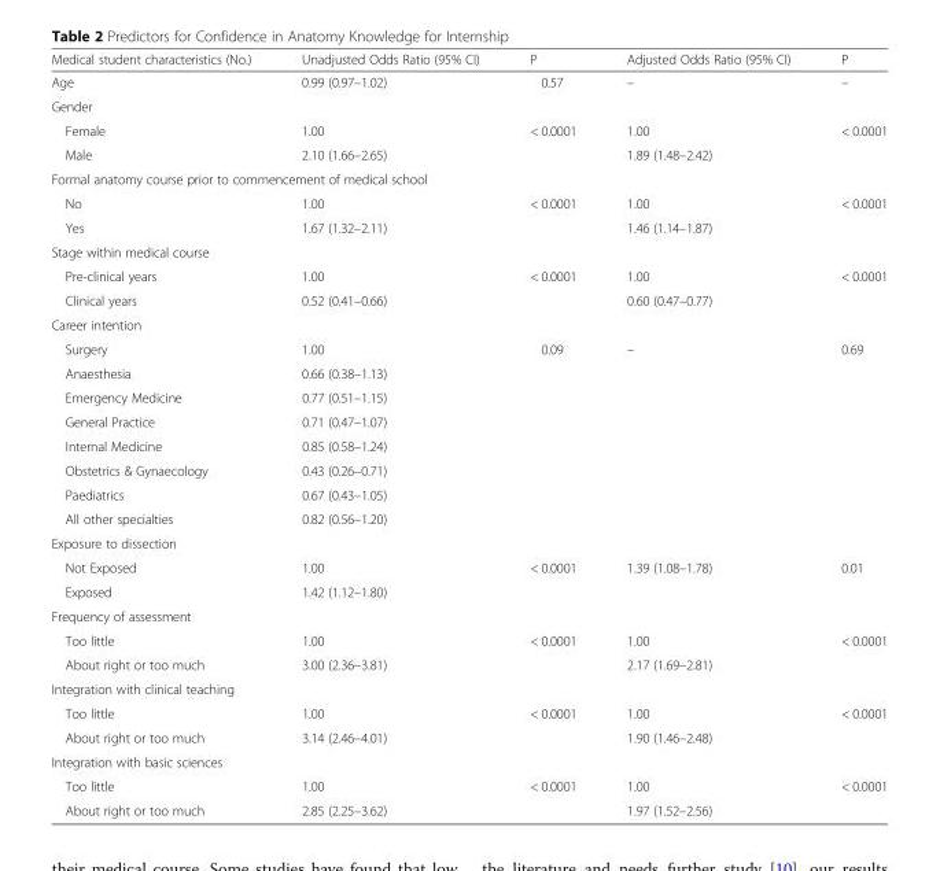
<table><thead><tr><td>Medical student characteristics (No.)</td><td>Unadjusted Odds Ratio (95% CI)</td><td>P</td><td>Adjusted Odds Ratio (95% CI)</td><td>P</td></tr></thead><tbody><tr><td>Age</td><td>0.99 (0.97–1.02)</td><td>0.57</td><td>–</td><td>–</td></tr><tr><td colspan="5">Gender</td></tr><tr><td>Female</td><td>1.00</td><td>&lt; 0.0001</td><td>1.00</td><td>&lt; 0.0001</td></tr><tr><td>Male</td><td>2.10 (1.66–2.65)</td><td></td><td>1.89 (1.48–2.42)</td><td></td></tr><tr><td colspan="5">Formal anatomy course prior to commencement of medical school</td></tr><tr><td>No</td><td>1.00</td><td>&lt; 0.0001</td><td>1.00</td><td>&lt; 0.0001</td></tr><tr><td>Yes</td><td>1.67 (1.32–2.11)</td><td></td><td>1.46 (1.14–1.87)</td><td></td></tr><tr><td colspan="5">Stage within medical course</td></tr><tr><td>Pre-clinical years</td><td>1.00</td><td>&lt; 0.0001</td><td>1.00</td><td>&lt; 0.0001</td></tr><tr><td>Clinical years</td><td>0.52 (0.41–0.66)</td><td></td><td>0.60 (0.47–0.77)</td><td></td></tr><tr><td colspan="5">Career intention</td></tr><tr><td>Surgery</td><td>1.00</td><td>0.09</td><td>–</td><td>0.69</td></tr><tr><td>Anaesthesia</td><td>0.66 (0.38–1.13)</td><td></td><td></td><td></td></tr><tr><td>Emergency Medicine</td><td>0.77 (0.51–1.15)</td><td></td><td></td><td></td></tr><tr><td>General Practice</td><td>0.71 (0.47–1.07)</td><td></td><td></td><td></td></tr><tr><td>Internal Medicine</td><td>0.85 (0.58–1.24)</td><td></td><td></td><td></td></tr><tr><td>Obstetrics &amp; Gynaecology</td><td>0.43 (0.26–0.71)</td><td></td><td></td><td></td></tr><tr><td>Paediatrics</td><td>0.67 (0.43–1.05)</td><td></td><td></td><td></td></tr><tr><td>All other specialties</td><td>0.82 (0.56–1.20)</td><td></td><td></td><td></td></tr><tr><td colspan="5">Exposure to dissection</td></tr><tr><td>Not Exposed</td><td>1.00</td><td>&lt; 0.0001</td><td>1.39 (1.08–1.78)</td><td>0.01</td></tr><tr><td>Exposed</td><td>1.42 (1.12–1.80)</td><td></td><td></td><td></td></tr><tr><td colspan="5">Frequency of assessment</td></tr><tr><td>Too little</td><td>1.00</td><td>&lt; 0.0001</td><td>1.00</td><td>&lt; 0.0001</td></tr><tr><td>About right or too much</td><td>3.00 (2.36–3.81)</td><td></td><td>2.17 (1.69–2.81)</td><td></td></tr><tr><td colspan="5">Integration with clinical teaching</td></tr><tr><td>Too little</td><td>1.00</td><td>&lt; 0.0001</td><td>1.00</td><td>&lt; 0.0001</td></tr><tr><td>About right or too much</td><td>3.14 (2.46–4.01)</td><td></td><td>1.90 (1.46–2.48)</td><td></td></tr><tr><td colspan="5">Integration with basic sciences</td></tr><tr><td>Too little</td><td>1.00</td><td>&lt; 0.0001</td><td>1.00</td><td>&lt; 0.0001</td></tr><tr><td>About right or too much</td><td>2.85 (2.25–3.62)</td><td></td><td>1.97 (1.52–2.56)</td><td></td></tr></tbody></table>